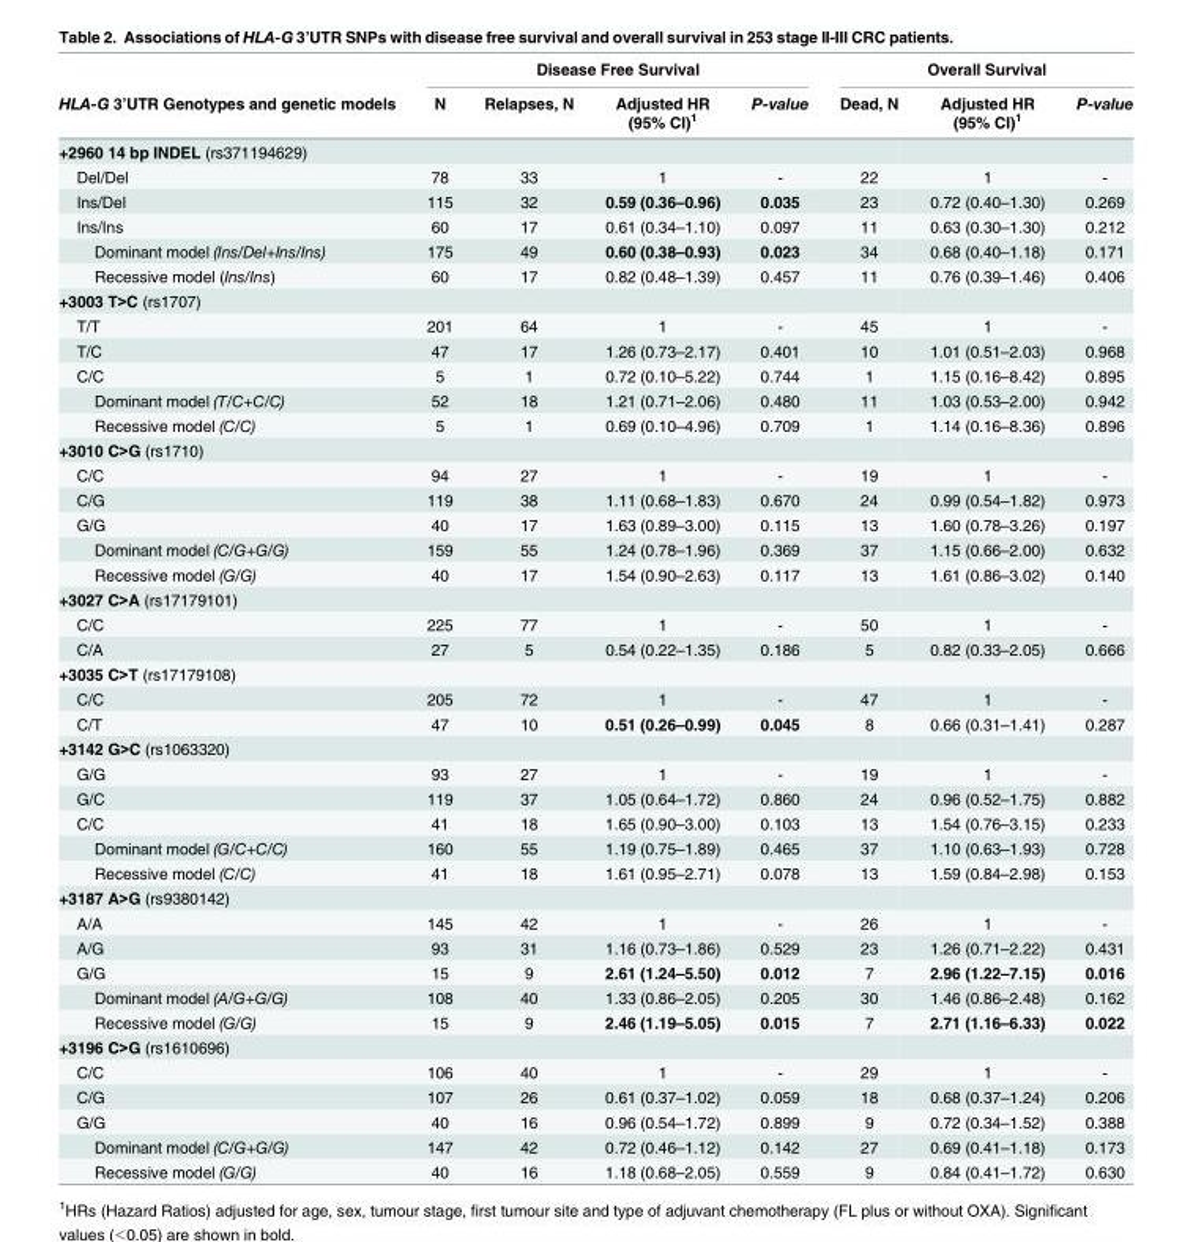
<table><thead><tr><td rowspan="2">HLA-G 3’UTR Genotypes and genetic models</td><td colspan="4">Disease Free Survival</td><td colspan="3">Overall Survival</td></tr><tr><td>N</td><td>Relapses, N</td><td>Adjusted HR (95% CI)<sup>1</sup></td><td>P-value</td><td>Dead, N</td><td>Adjusted HR (95% CI)<sup>1</sup></td><td>P-value</td></tr></thead><tbody><tr><td colspan="8">+2960 14 bp INDEL (rs371194629)</td></tr><tr><td>Del/Del</td><td>78</td><td>33</td><td>1</td><td>-</td><td>22</td><td>1</td><td>-</td></tr><tr><td>Ins/Del</td><td>115</td><td>32</td><td>0.59 (0.36–0.96)</td><td>0.035</td><td>23</td><td>0.72 (0.40–1.30)</td><td>0.269</td></tr><tr><td>Ins/Ins</td><td>60</td><td>17</td><td>0.61 (0.34–1.10)</td><td>0.097</td><td>11</td><td>0.63 (0.30–1.30)</td><td>0.212</td></tr><tr><td>Dominant model (Ins/Del+Ins/Ins)</td><td>175</td><td>49</td><td>0.60 (0.38–0.93)</td><td>0.023</td><td>34</td><td>0.68 (0.40–1.18)</td><td>0.171</td></tr><tr><td>Recessive model (Ins/Ins)</td><td>60</td><td>17</td><td>0.82 (0.48–1.39)</td><td>0.457</td><td>11</td><td>0.76 (0.39–1.46)</td><td>0.406</td></tr><tr><td colspan="8">+3003 T&gt;C (rs1707)</td></tr><tr><td>T/T</td><td>201</td><td>64</td><td>1</td><td>-</td><td>45</td><td>1</td><td>-</td></tr><tr><td>T/C</td><td>47</td><td>17</td><td>1.26 (0.73–2.17)</td><td>0.401</td><td>10</td><td>1.01 (0.51–2.03)</td><td>0.968</td></tr><tr><td>C/C</td><td>5</td><td>1</td><td>0.72 (0.10–5.22)</td><td>0.744</td><td>1</td><td>1.15 (0.16–8.42)</td><td>0.895</td></tr><tr><td>Dominant model (T/C+C/C)</td><td>52</td><td>18</td><td>1.21 (0.71–2.06)</td><td>0.480</td><td>11</td><td>1.03 (0.53–2.00)</td><td>0.942</td></tr><tr><td>Recessive model (C/C)</td><td>5</td><td>1</td><td>0.69 (0.10–4.96)</td><td>0.709</td><td>1</td><td>1.14 (0.16–8.36)</td><td>0.896</td></tr><tr><td colspan="8">+3010 C&gt;G (rs1710)</td></tr><tr><td>C/C</td><td>94</td><td>27</td><td>1</td><td>-</td><td>19</td><td>1</td><td>-</td></tr><tr><td>C/G</td><td>119</td><td>38</td><td>1.11 (0.68–1.83)</td><td>0.670</td><td>24</td><td>0.99 (0.54–1.82)</td><td>0.973</td></tr><tr><td>G/G</td><td>40</td><td>17</td><td>1.63 (0.89–3.00)</td><td>0.115</td><td>13</td><td>1.60 (0.78–3.26)</td><td>0.197</td></tr><tr><td>Dominant model (C/G+G/G)</td><td>159</td><td>55</td><td>1.24 (0.78–1.96)</td><td>0.369</td><td>37</td><td>1.15 (0.66–2.00)</td><td>0.632</td></tr><tr><td>Recessive model (G/G)</td><td>40</td><td>17</td><td>1.54 (0.90–2.63)</td><td>0.117</td><td>13</td><td>1.61 (0.86–3.02)</td><td>0.140</td></tr><tr><td colspan="8">+3027 C&gt;A (rs17179101)</td></tr><tr><td>C/C</td><td>225</td><td>77</td><td>1</td><td>-</td><td>50</td><td>1</td><td>-</td></tr><tr><td>C/A</td><td>27</td><td>5</td><td>0.54 (0.22–1.35)</td><td>0.186</td><td>5</td><td>0.82 (0.33–2.05)</td><td>0.666</td></tr><tr><td colspan="8">+3035 C&gt;T (rs17179108)</td></tr><tr><td>C/C</td><td>205</td><td>72</td><td>1</td><td>-</td><td>47</td><td>1</td><td>-</td></tr><tr><td>C/T</td><td>47</td><td>10</td><td>0.51 (0.26–0.99)</td><td>0.045</td><td>8</td><td>0.66 (0.31–1.41)</td><td>0.287</td></tr><tr><td colspan="8">+3142 G&gt;C (rs1063320)</td></tr><tr><td>G/G</td><td>93</td><td>27</td><td>1</td><td>-</td><td>19</td><td>1</td><td>-</td></tr><tr><td>G/C</td><td>119</td><td>37</td><td>1.05 (0.64–1.72)</td><td>0.860</td><td>24</td><td>0.96 (0.52–1.75)</td><td>0.882</td></tr><tr><td>C/C</td><td>41</td><td>18</td><td>1.65 (0.90–3.00)</td><td>0.103</td><td>13</td><td>1.54 (0.76–3.15)</td><td>0.233</td></tr><tr><td>Dominant model (G/C+C/C)</td><td>160</td><td>55</td><td>1.19 (0.75–1.89)</td><td>0.465</td><td>37</td><td>1.10 (0.63–1.93)</td><td>0.728</td></tr><tr><td>Recessive model (C/C)</td><td>41</td><td>18</td><td>1.61 (0.95–2.71)</td><td>0.078</td><td>13</td><td>1.59 (0.84–2.98)</td><td>0.153</td></tr><tr><td colspan="8">+3187 A&gt;G (rs9380142)</td></tr><tr><td>A/A</td><td>145</td><td>42</td><td>1</td><td>-</td><td>26</td><td>1</td><td>-</td></tr><tr><td>A/G</td><td>93</td><td>31</td><td>1.16 (0.73–1.86)</td><td>0.529</td><td>23</td><td>1.26 (0.71–2.22)</td><td>0.431</td></tr><tr><td>G/G</td><td>15</td><td>9</td><td>2.61 (1.24–5.50)</td><td>0.012</td><td>7</td><td>2.96 (1.22–7.15)</td><td>0.016</td></tr><tr><td>Dominant model (A/G+G/G)</td><td>108</td><td>40</td><td>1.33 (0.86–2.05)</td><td>0.205</td><td>30</td><td>1.46 (0.86–2.48)</td><td>0.162</td></tr><tr><td>Recessive model (G/G)</td><td>15</td><td>9</td><td>2.46 (1.19–5.05)</td><td>0.015</td><td>7</td><td>2.71 (1.16–6.33)</td><td>0.022</td></tr><tr><td colspan="8">+3196 C&gt;G (rs1610696)</td></tr><tr><td>C/C</td><td>106</td><td>40</td><td>1</td><td>-</td><td>29</td><td>1</td><td>-</td></tr><tr><td>C/G</td><td>107</td><td>26</td><td>0.61 (0.37–1.02)</td><td>0.059</td><td>18</td><td>0.68 (0.37–1.24)</td><td>0.206</td></tr><tr><td>G/G</td><td>40</td><td>16</td><td>0.96 (0.54–1.72)</td><td>0.899</td><td>9</td><td>0.72 (0.34–1.52)</td><td>0.388</td></tr><tr><td>Dominant model (C/G+G/G)</td><td>147</td><td>42</td><td>0.72 (0.46–1.12)</td><td>0.142</td><td>27</td><td>0.69 (0.41–1.18)</td><td>0.173</td></tr><tr><td>Recessive model (G/G)</td><td>40</td><td>16</td><td>1.18 (0.68–2.05)</td><td>0.559</td><td>9</td><td>0.84 (0.41–1.72)</td><td>0.630</td></tr></tbody></table>